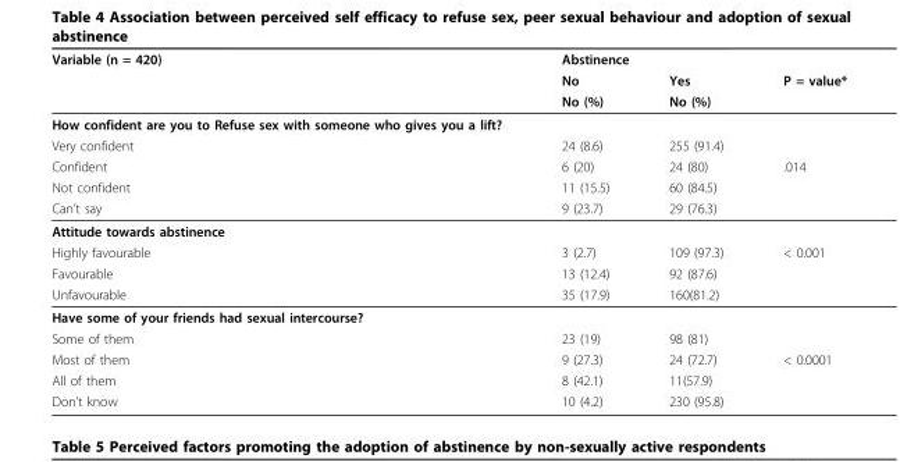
<table><thead><tr><td rowspan="3">Variable (n = 420)</td><td colspan="2">Abstinence</td><td rowspan="3">P = value*</td></tr><tr><td rowspan="2">No No (%)</td><td rowspan="2">Yes No (%)</td></tr><tr></tr></thead><tbody><tr><td colspan="4">How confident are you to Refuse sex with someone who gives you a lift?</td></tr><tr><td>Very confident</td><td>24 (8.6)</td><td>255 (91.4)</td><td></td></tr><tr><td>Confident</td><td>6 (20)</td><td>24 (80)</td><td>.014</td></tr><tr><td>Not confident</td><td>11 (15.5)</td><td>60 (84.5)</td><td></td></tr><tr><td>Can’t say</td><td>9 (23.7)</td><td>29 (76.3)</td><td></td></tr><tr><td colspan="4">Attitude towards abstinence</td></tr><tr><td>Highly favourable</td><td>3 (2.7)</td><td>109 (97.3)</td><td>&lt; 0.001</td></tr><tr><td>Favourable</td><td>13 (12.4)</td><td>92 (87.6)</td><td></td></tr><tr><td>Unfavourable</td><td>35 (17.9)</td><td>160(81.2)</td><td></td></tr><tr><td colspan="4">Have some of your friends had sexual intercourse?</td></tr><tr><td>Some of them</td><td>23 (19)</td><td>98 (81)</td><td></td></tr><tr><td>Most of them</td><td>9 (27.3)</td><td>24 (72.7)</td><td>&lt; 0.0001</td></tr><tr><td>All of them</td><td>8 (42.1)</td><td>11(57.9)</td><td></td></tr><tr><td>Don’t know</td><td>10 (4.2)</td><td>230 (95.8)</td><td></td></tr></tbody></table>